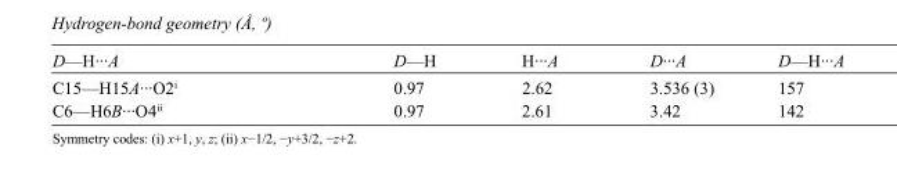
<table><tbody><tr><td>D—H···A</td><td>D—H</td><td>H···A</td><td>D···A</td><td>D—H···A</td></tr><tr><td>C15—H15A···O2<sup>i</sup></td><td>0.97</td><td>2.62</td><td>3.536 (3)</td><td>157</td></tr><tr><td>C6—H6B···O4<sup>ii</sup></td><td>0.97</td><td>2.61</td><td>3.42</td><td>142</td></tr></tbody></table>